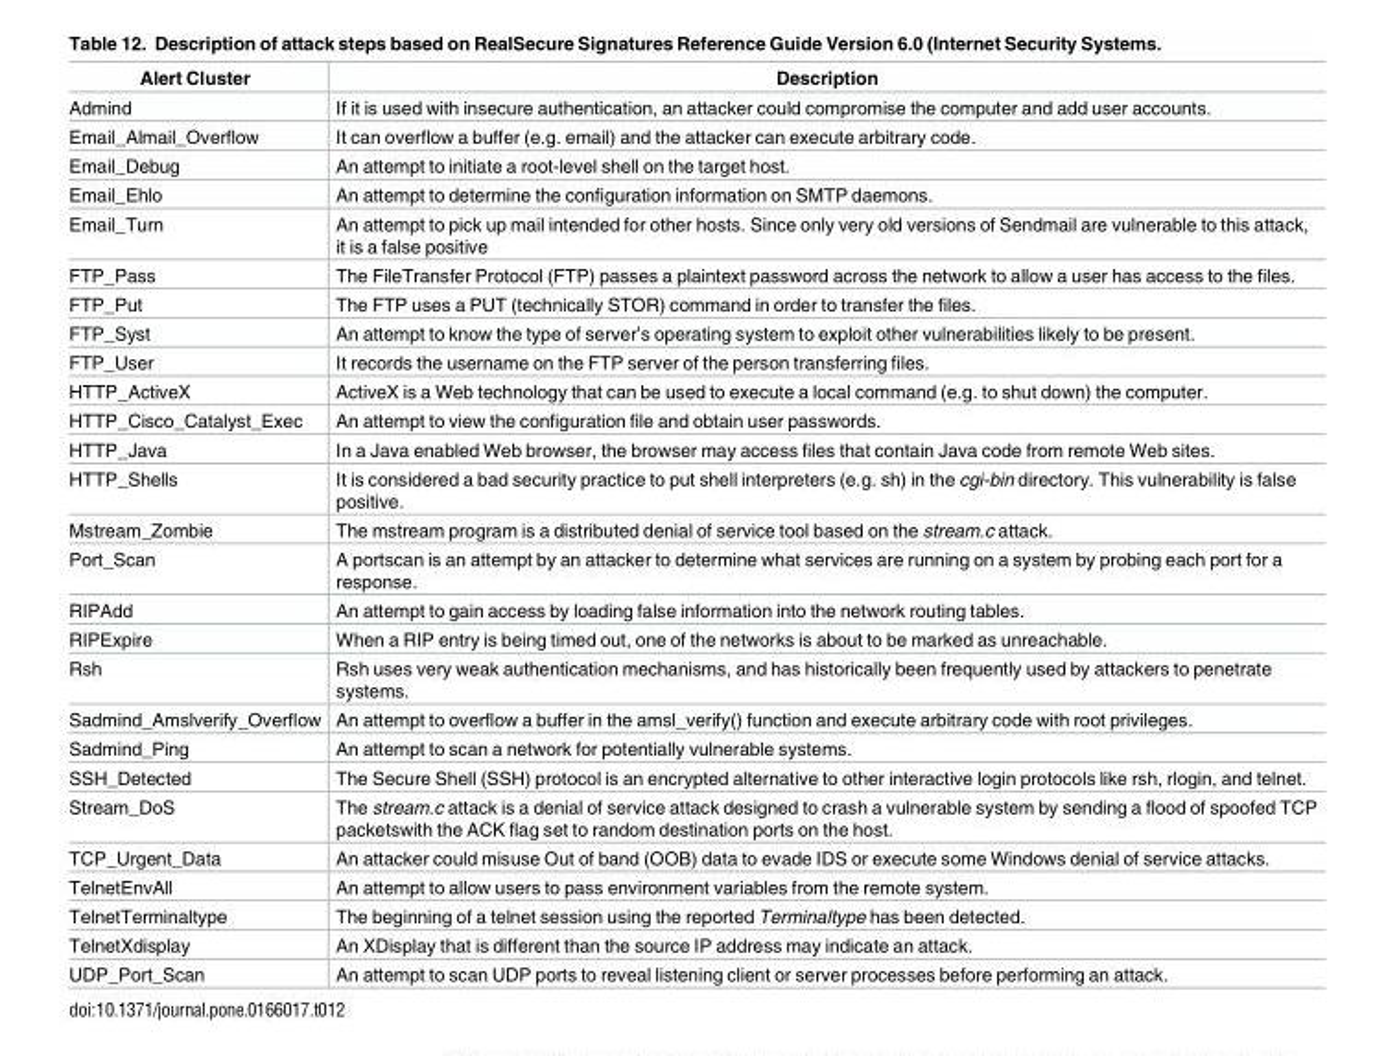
<table><thead><tr><td>Alert Cluster</td><td>Description</td></tr></thead><tbody><tr><td>Admind</td><td>If it is used with insecure authentication, an attacker could compromise the computer and add user accounts.</td></tr><tr><td>Email_Almail_Overflow</td><td>It can overflow a buffer (e.g. email) and the attacker can execute arbitrary code.</td></tr><tr><td>Email_Debug</td><td>An attempt to initiate a root-level shell on the target host.</td></tr><tr><td>Email_Ehlo</td><td>An attempt to determine the configuration information on SMTP daemons.</td></tr><tr><td>Email_Turn</td><td>An attempt to pick up mail intended for other hosts. Since only very old versions of Sendmail are vulnerable to this attack, it is a false positive</td></tr><tr><td>FTP_Pass</td><td>The FileTransfer Protocol (FTP) passes a plaintext password across the network to allow a user has access to the files.</td></tr><tr><td>FTP_Put</td><td>The FTP uses a PUT (technically STOR) command in order to transfer the files.</td></tr><tr><td>FTP_Syst</td><td>An attempt to know the type of server’s operating system to exploit other vulnerabilities likely to be present.</td></tr><tr><td>FTP_User</td><td>It records the username on the FTP server of the person transferring files.</td></tr><tr><td>HTTP_ActiveX</td><td>ActiveX is a Web technology that can be used to execute a local command (e.g. to shut down) the computer.</td></tr><tr><td>HTTP_Cisco_Catalyst_Exec</td><td>An attempt to view the configuration file and obtain user passwords.</td></tr><tr><td>HTTP_Java</td><td>In a Java enabled Web browser, the browser may access files that contain Java code from remote Web sites.</td></tr><tr><td>HTTP_Shells</td><td>It is considered a bad security practice to put shell interpreters (e.g. sh) in the cgi-bin directory. This vulnerability is false positive.</td></tr><tr><td>Mstream_Zombie</td><td>The mstream program is a distributed denial of service tool based on the stream.c attack.</td></tr><tr><td>Port_Scan</td><td>A portscan is an attempt by an attacker to determine what services are running on a system by probing each port for a response.</td></tr><tr><td>RIPAdd</td><td>An attempt to gain access by loading false information into the network routing tables.</td></tr><tr><td>RIPExpire</td><td>When a RIP entry is being timed out, one of the networks is about to be marked as unreachable.</td></tr><tr><td>Rsh</td><td>Rsh uses very weak authentication mechanisms, and has historically been frequently used by attackers to penetrate systems.</td></tr><tr><td>Sadmind_Amslverify_Overflow</td><td>An attempt to overflow a buffer in the amsl_verify() function and execute arbitrary code with root privileges.</td></tr><tr><td>Sadmind_Ping</td><td>An attempt to scan a network for potentially vulnerable systems.</td></tr><tr><td>SSH_Detected</td><td>The Secure Shell (SSH) protocol is an encrypted alternative to other interactive login protocols like rsh, rlogin, and telnet.</td></tr><tr><td>Stream_DoS</td><td>The stream.c attack is a denial of service attack designed to crash a vulnerable system by sending a flood of spoofed TCP packetswith the ACK flag set to random destination ports on the host.</td></tr><tr><td>TCP_Urgent_Data</td><td>An attacker could misuse Out of band (OOB) data to evade IDS or execute some Windows denial of service attacks.</td></tr><tr><td>TelnetEnvAll</td><td>An attempt to allow users to pass environment variables from the remote system.</td></tr><tr><td>TelnetTerminaltype</td><td>The beginning of a telnet session using the reported Terminaltype has been detected.</td></tr><tr><td>TelnetXdisplay</td><td>An XDisplay that is different than the source IP address may indicate an attack.</td></tr><tr><td>UDP_Port_Scan</td><td>An attempt to scan UDP ports to reveal listening client or server processes before performing an attack.</td></tr></tbody></table>